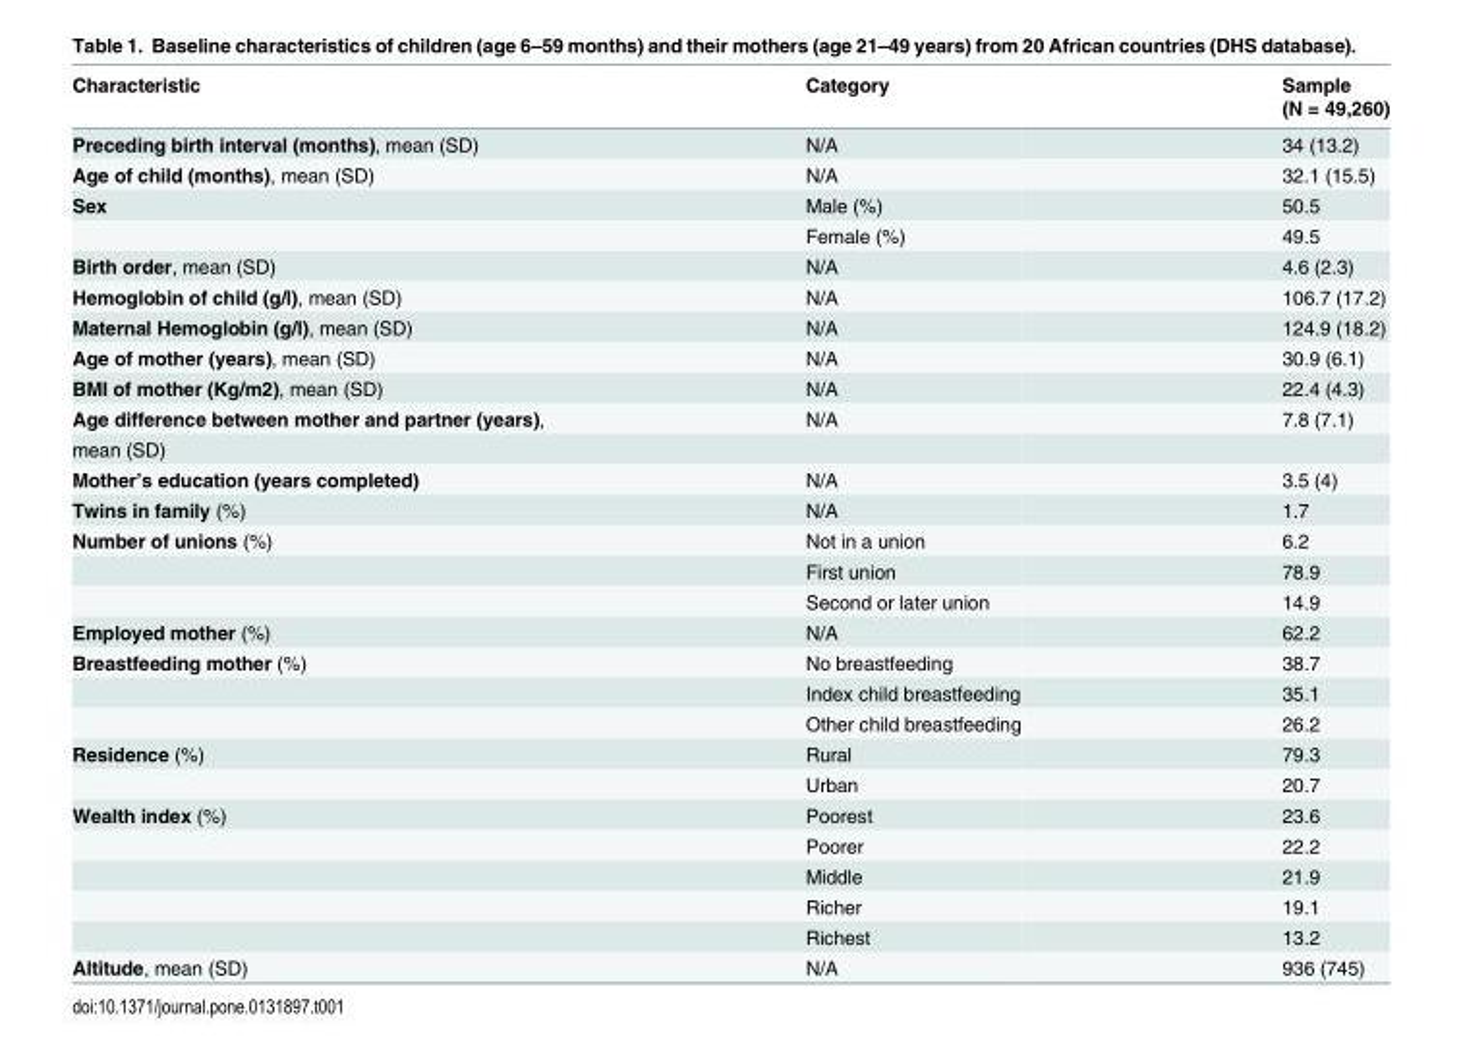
<table><thead><tr><td rowspan="2">Characteristic</td><td rowspan="2">Category</td><td rowspan="2">Sample (N = 49,260)</td></tr><tr></tr></thead><tbody><tr><td>Preceding birth interval (months), mean (SD)</td><td>N/A</td><td>34 (13.2)</td></tr><tr><td>Age of child (months), mean (SD)</td><td>N/A</td><td>32.1 (15.5)</td></tr><tr><td rowspan="2">Sex</td><td>Male (%)</td><td>50.5</td></tr><tr><td>Female (%)</td><td>49.5</td></tr><tr><td>Birth order, mean (SD)</td><td>N/A</td><td>4.6 (2.3)</td></tr><tr><td>Hemoglobin of child (g/l), mean (SD)</td><td>N/A</td><td>106.7 (17.2)</td></tr><tr><td>Maternal Hemoglobin (g/l), mean (SD)</td><td>N/A</td><td>124.9 (18.2)</td></tr><tr><td>Age of mother (years), mean (SD)</td><td>N/A</td><td>30.9 (6.1)</td></tr><tr><td>BMI of mother (Kg/m2), mean (SD)</td><td>N/A</td><td>22.4 (4.3)</td></tr><tr><td>Age difference between mother and partner (years),</td><td>N/A</td><td>7.8 (7.1)</td></tr><tr><td colspan="3">mean (SD)</td></tr><tr><td>Mother’s education (years completed)</td><td>N/A</td><td>3.5 (4)</td></tr><tr><td>Twins in family (%)</td><td>N/A</td><td>1.7</td></tr><tr><td rowspan="3">Number of unions (%)</td><td>Not in a union</td><td>6.2</td></tr><tr><td>First union</td><td>78.9</td></tr><tr><td>Second or later union</td><td>14.9</td></tr><tr><td>Employed mother (%)</td><td>N/A</td><td>62.2</td></tr><tr><td rowspan="3">Breastfeeding mother (%)</td><td>No breastfeeding</td><td>38.7</td></tr><tr><td>Index child breastfeeding</td><td>35.1</td></tr><tr><td>Other child breastfeeding</td><td>26.2</td></tr><tr><td rowspan="2">Residence (%)</td><td>Rural</td><td>79.3</td></tr><tr><td>Urban</td><td>20.7</td></tr><tr><td rowspan="5">Wealth index (%)</td><td>Poorest</td><td>23.6</td></tr><tr><td>Poorer</td><td>22.2</td></tr><tr><td>Middle</td><td>21.9</td></tr><tr><td>Richer</td><td>19.1</td></tr><tr><td>Richest</td><td>13.2</td></tr><tr><td>Altitude, mean (SD)</td><td>N/A</td><td>936 (745)</td></tr></tbody></table>